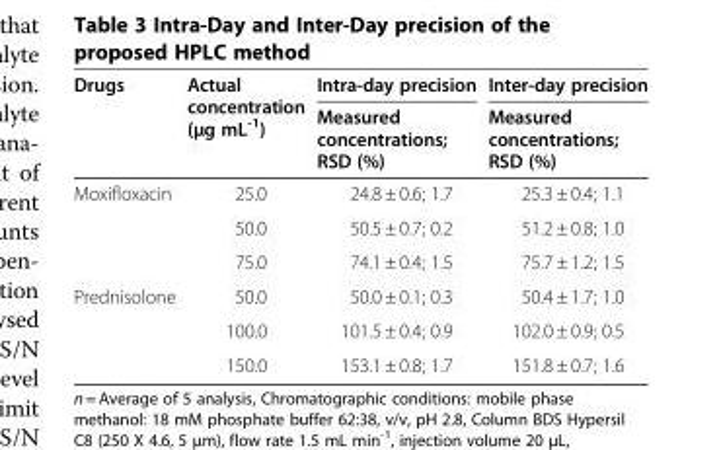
<table><thead><tr><td rowspan="2">Drugs</td><td rowspan="2">Actual concentration (μg mL<sup>-1</sup>)</td><td rowspan="2">Intra-day precision Measured concentrations; RSD (%)</td><td rowspan="2">Inter-day precision Measured concentrations; RSD (%)</td></tr><tr></tr></thead><tbody><tr><td rowspan="3">Moxifloxacin</td><td>25.0</td><td>24.8 ± 0.6; 1.7</td><td>25.3 ± 0.4; 1.1</td></tr><tr><td>50.0</td><td>50.5 ± 0.7; 0.2</td><td>51.2 ± 0.8; 1.0</td></tr><tr><td>75.0</td><td>74.1 ± 0.4; 1.5</td><td>75.7 ± 1.2; 1.5</td></tr><tr><td rowspan="3">Prednisolone</td><td>50.0</td><td>50.0 ± 0.1; 0.3</td><td>50.4 ± 1.7; 1.0</td></tr><tr><td>100.0</td><td>101.5 ± 0.4; 0.9</td><td>102.0 ± 0.9; 0.5</td></tr><tr><td>150.0</td><td>153.1 ± 0.8; 1.7</td><td>151.8 ± 0.7; 1.6</td></tr></tbody></table>